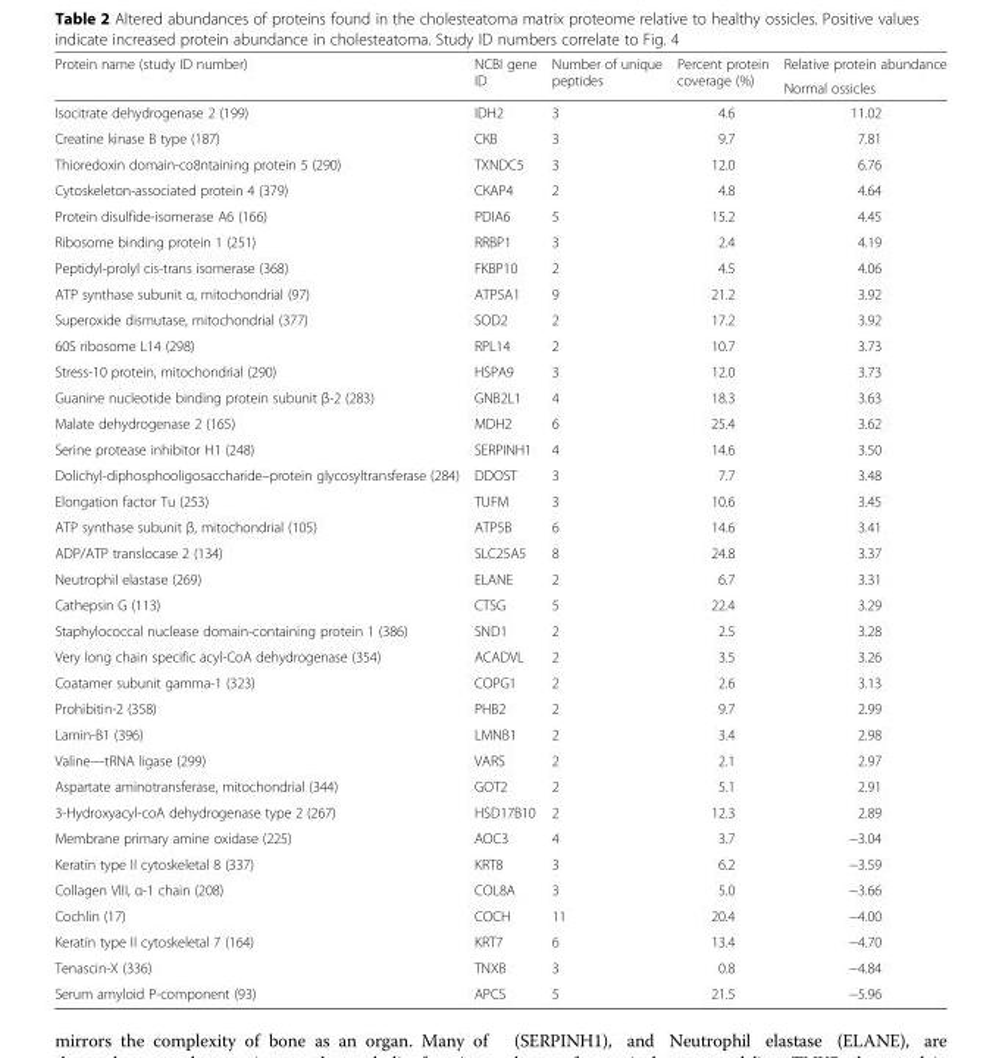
<table><thead><tr><td rowspan="2">Protein name (study ID number)</td><td rowspan="2">NCBI gene ID</td><td rowspan="2">Number of unique peptides</td><td rowspan="2">Percent protein coverage (%)</td><td rowspan="2">Relative protein abundance Normal ossicles</td></tr><tr></tr></thead><tbody><tr><td>Isocitrate dehydrogenase 2 (199)</td><td>IDH2</td><td>3</td><td>4.6</td><td>11.02</td></tr><tr><td>Creatine kinase B type (187)</td><td>CKB</td><td>3</td><td>9.7</td><td>7.81</td></tr><tr><td>Thioredoxin domain-co8ntaining protein 5 (290)</td><td>TXNDC5</td><td>3</td><td>12.0</td><td>6.76</td></tr><tr><td>Cytoskeleton-associated protein 4 (379)</td><td>CKAP4</td><td>2</td><td>4.8</td><td>4.64</td></tr><tr><td>Protein disulfide-isomerase A6 (166)</td><td>PDIA6</td><td>5</td><td>15.2</td><td>4.45</td></tr><tr><td>Ribosome binding protein 1 (251)</td><td>RRBP1</td><td>3</td><td>2.4</td><td>4.19</td></tr><tr><td>Peptidyl-prolyl cis-trans isomerase (368)</td><td>FKBP10</td><td>2</td><td>4.5</td><td>4.06</td></tr><tr><td>ATP synthase subunit α, mitochondrial (97)</td><td>ATP5A1</td><td>9</td><td>21.2</td><td>3.92</td></tr><tr><td>Superoxide dismutase, mitochondrial (377)</td><td>SOD2</td><td>2</td><td>17.2</td><td>3.92</td></tr><tr><td>60S ribosome L14 (298)</td><td>RPL14</td><td>2</td><td>10.7</td><td>3.73</td></tr><tr><td>Stress-10 protein, mitochondrial (290)</td><td>HSPA9</td><td>3</td><td>12.0</td><td>3.73</td></tr><tr><td>Guanine nucleotide binding protein subunit β-2 (283)</td><td>GNB2L1</td><td>4</td><td>18.3</td><td>3.63</td></tr><tr><td>Malate dehydrogenase 2 (165)</td><td>MDH2</td><td>6</td><td>25.4</td><td>3.62</td></tr><tr><td>Serine protease inhibitor H1 (248)</td><td>SERPINH1</td><td>4</td><td>14.6</td><td>3.50</td></tr><tr><td>Dolichyl-diphosphooligosaccharide–protein glycosyltransferase (284)</td><td>DDOST</td><td>3</td><td>7.7</td><td>3.48</td></tr><tr><td>Elongation factor Tu (253)</td><td>TUFM</td><td>3</td><td>10.6</td><td>3.45</td></tr><tr><td>ATP synthase subunit β, mitochondrial (105)</td><td>ATP5B</td><td>6</td><td>14.6</td><td>3.41</td></tr><tr><td>ADP/ATP translocase 2 (134)</td><td>SLC25A5</td><td>8</td><td>24.8</td><td>3.37</td></tr><tr><td>Neutrophil elastase (269)</td><td>ELANE</td><td>2</td><td>6.7</td><td>3.31</td></tr><tr><td>Cathepsin G (113)</td><td>CTSG</td><td>5</td><td>22.4</td><td>3.29</td></tr><tr><td>Staphylococcal nuclease domain-containing protein 1 (386)</td><td>SND1</td><td>2</td><td>2.5</td><td>3.28</td></tr><tr><td>Very long chain specific acyl-CoA dehydrogenase (354)</td><td>ACADVL</td><td>2</td><td>3.5</td><td>3.26</td></tr><tr><td>Coatamer subunit gamma-1 (323)</td><td>COPG1</td><td>2</td><td>2.6</td><td>3.13</td></tr><tr><td>Prohibitin-2 (358)</td><td>PHB2</td><td>2</td><td>9.7</td><td>2.99</td></tr><tr><td>Lamin-B1 (396)</td><td>LMNB1</td><td>2</td><td>3.4</td><td>2.98</td></tr><tr><td>Valine—tRNA ligase (299)</td><td>VARS</td><td>2</td><td>2.1</td><td>2.97</td></tr><tr><td>Aspartate aminotransferase, mitochondrial (344)</td><td>GOT2</td><td>2</td><td>5.1</td><td>2.91</td></tr><tr><td>3-Hydroxyacyl-coA dehydrogenase type 2 (267)</td><td>HSD17B10</td><td>2</td><td>12.3</td><td>2.89</td></tr><tr><td>Membrane primary amine oxidase (225)</td><td>AOC3</td><td>4</td><td>3.7</td><td>−3.04</td></tr><tr><td>Keratin type II cytoskeletal 8 (337)</td><td>KRT8</td><td>3</td><td>6.2</td><td>−3.59</td></tr><tr><td>Collagen VIII, α-1 chain (208)</td><td>COL8A</td><td>3</td><td>5.0</td><td>−3.66</td></tr><tr><td>Cochlin (17)</td><td>COCH</td><td>11</td><td>20.4</td><td>−4.00</td></tr><tr><td>Keratin type II cytoskeletal 7 (164)</td><td>KRT7</td><td>6</td><td>13.4</td><td>−4.70</td></tr><tr><td>Tenascin-X (336)</td><td>TNXB</td><td>3</td><td>0.8</td><td>−4.84</td></tr><tr><td>Serum amyloid P-component (93)</td><td>APCS</td><td>5</td><td>21.5</td><td>−5.96</td></tr></tbody></table>